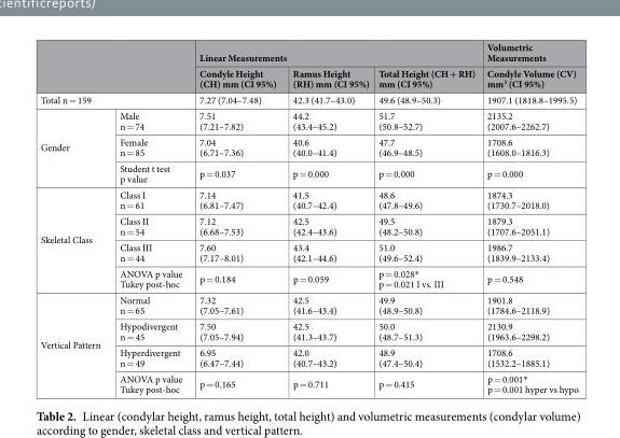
<table><thead><tr><td rowspan="2"></td><td rowspan="2"></td><td colspan="3">Linear Measurements</td><td rowspan="2">Volumetric Measurements Condyle Volume (CV) mm<sup>3</sup> (CI 95%)</td></tr><tr><td>Condyle Height (CH) mm (CI 95%)</td><td>Ramus Height (RH) mm (CI 95%)</td><td>Total Height (CH + RH) mm (CI 95%)</td></tr></thead><tbody><tr><td colspan="2">Total n = 159</td><td>7.27 (7.04–7.48)</td><td>42.3 (41.7–43.0)</td><td>49.6 (48.9–50.3)</td><td>1907.1 (1818.8–1995.5)</td></tr><tr><td rowspan="3">Gender</td><td>Male n = 74</td><td>7.51 (7.21–7.82)</td><td>44.2 (43.4–45.2)</td><td>51.7 (50.8–52.7)</td><td>2135.2 (2007.6–2262.7)</td></tr><tr><td>Female n = 85</td><td>7.04 (6.71–7.36)</td><td>40.6 (40.0–41.4)</td><td>47.7 (46.9–48.5)</td><td>1708.6 (1608.0–1816.3)</td></tr><tr><td>Student t test p value</td><td>p = 0.037</td><td>p = 0.000</td><td>p = 0.000</td><td>p = 0.000</td></tr><tr><td rowspan="4">Skeletal Class</td><td>Class I n = 61</td><td>7.14 (6.81–7.47)</td><td>41.5 (40.7–42.4)</td><td>48.6 (47.8–49.6)</td><td>1874.3 (1730.7–2018.0)</td></tr><tr><td>Class II n = 54</td><td>7.12 (6.68–7.53)</td><td>42.5 (42.4–43.6)</td><td>49.5 (48.2–50.8)</td><td>1879.3 (1707.6–2051.1)</td></tr><tr><td>Class III n = 44</td><td>7.60 (7.17–8.01)</td><td>43.4 (42.1–44.6)</td><td>51.0 (49.6–52.4)</td><td>1986.7 (1839.9–2133.4)</td></tr><tr><td>ANOVA p value Tukey post-hoc</td><td>p = 0.184</td><td>p = 0.059</td><td>p = 0.028* p = 0.021 I vs. III</td><td>p = 0.548</td></tr><tr><td rowspan="4">Vertical Pattern</td><td>Normal n = 65</td><td>7.32 (7.05–7.61)</td><td>42.5 (41.6–43.4)</td><td>49.9 (48.9–50.8)</td><td>1901.8 (1784.6–2118.9)</td></tr><tr><td>Hypodivergent n = 45</td><td>7.50 (7.05–7.94)</td><td>42.5 (41.3–43.7)</td><td>50.0 (48.7–51.3)</td><td>2130.9 (1963.6–2298.2)</td></tr><tr><td>Hyperdivergent n = 49</td><td>6.95 (6.47–7.44)</td><td>42.0 (40.7–43.2)</td><td>48.9 (47.4–50.4)</td><td>1708.6 (1532.2–1885.1)</td></tr><tr><td>ANOVA p value Tukey post-hoc</td><td>p = 0.165</td><td>p = 0.711</td><td>p = 0.415</td><td>p = 0.001* p = 0.001 hyper vs hypo</td></tr></tbody></table>